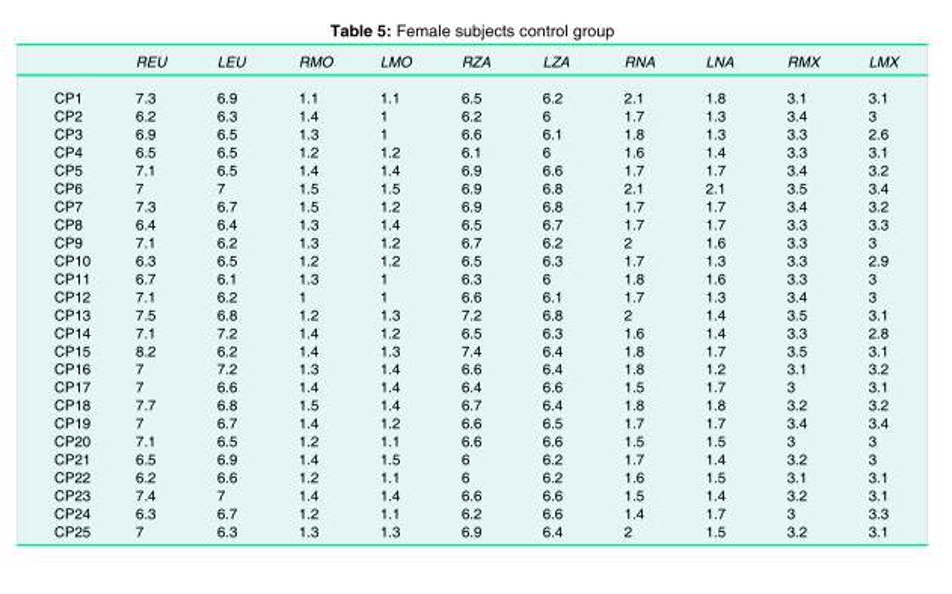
<table><thead><tr><td></td><td>REU</td><td>LEU</td><td>RMO</td><td>LMO</td><td>RZA</td><td>LZA</td><td>RNA</td><td>LNA</td><td>RMX</td><td>LMX</td></tr></thead><tbody><tr><td>CP1</td><td>7.3</td><td>6.9</td><td>1.1</td><td>1.1</td><td>6.5</td><td>6.2</td><td>2.1</td><td>1.8</td><td>3.1</td><td>3.1</td></tr><tr><td>CP2</td><td>6.2</td><td>6.3</td><td>1.4</td><td>1</td><td>6.2</td><td>6</td><td>1.7</td><td>1.3</td><td>3.4</td><td>3</td></tr><tr><td>CP3</td><td>6.9</td><td>6.5</td><td>1.3</td><td>1</td><td>6.6</td><td>6.1</td><td>1.8</td><td>1.3</td><td>3.3</td><td>2.6</td></tr><tr><td>CP4</td><td>6.5</td><td>6.5</td><td>1.2</td><td>1.2</td><td>6.1</td><td>6</td><td>1.6</td><td>1.4</td><td>3.3</td><td>3.1</td></tr><tr><td>CP5</td><td>7.1</td><td>6.5</td><td>1.4</td><td>1.4</td><td>6.9</td><td>6.6</td><td>1.7</td><td>1.7</td><td>3.4</td><td>3.2</td></tr><tr><td>CP6</td><td>7</td><td>7</td><td>1.5</td><td>1.5</td><td>6.9</td><td>6.8</td><td>2.1</td><td>2.1</td><td>3.5</td><td>3.4</td></tr><tr><td>CP7</td><td>7.3</td><td>6.7</td><td>1.5</td><td>1.2</td><td>6.9</td><td>6.8</td><td>1.7</td><td>1.7</td><td>3.4</td><td>3.2</td></tr><tr><td>CP8</td><td>6.4</td><td>6.4</td><td>1.3</td><td>1.4</td><td>6.5</td><td>6.7</td><td>1.7</td><td>1.7</td><td>3.3</td><td>3.3</td></tr><tr><td>CP9</td><td>7.1</td><td>6.2</td><td>1.3</td><td>1.2</td><td>6.7</td><td>6.2</td><td>2</td><td>1.6</td><td>3.3</td><td>3</td></tr><tr><td>CP10</td><td>6.3</td><td>6.5</td><td>1.2</td><td>1.2</td><td>6.5</td><td>6.3</td><td>1.7</td><td>1.3</td><td>3.3</td><td>2.9</td></tr><tr><td>CP11</td><td>6.7</td><td>6.1</td><td>1.3</td><td>1</td><td>6.3</td><td>6</td><td>1.8</td><td>1.6</td><td>3.3</td><td>3</td></tr><tr><td>CP12</td><td>7.1</td><td>6.2</td><td>1</td><td>1</td><td>6.6</td><td>6.1</td><td>1.7</td><td>1.3</td><td>3.4</td><td>3</td></tr><tr><td>CP13</td><td>7.5</td><td>6.8</td><td>1.2</td><td>1.3</td><td>7.2</td><td>6.8</td><td>2</td><td>1.4</td><td>3.5</td><td>3.1</td></tr><tr><td>CP14</td><td>7.1</td><td>7.2</td><td>1.4</td><td>1.2</td><td>6.5</td><td>6.3</td><td>1.6</td><td>1.4</td><td>3.3</td><td>2.8</td></tr><tr><td>CP15</td><td>8.2</td><td>6.2</td><td>1.4</td><td>1.3</td><td>7.4</td><td>6.4</td><td>1.8</td><td>1.7</td><td>3.5</td><td>3.1</td></tr><tr><td>CP16</td><td>7</td><td>7.2</td><td>1.3</td><td>1.4</td><td>6.6</td><td>6.4</td><td>1.8</td><td>1.2</td><td>3.1</td><td>3.2</td></tr><tr><td>CP17</td><td>7</td><td>6.6</td><td>1.4</td><td>1.4</td><td>6.4</td><td>6.6</td><td>1.5</td><td>1.7</td><td>3</td><td>3.1</td></tr><tr><td>CP18</td><td>7.7</td><td>6.8</td><td>1.5</td><td>1.4</td><td>6.7</td><td>6.4</td><td>1.8</td><td>1.8</td><td>3.2</td><td>3.2</td></tr><tr><td>CP19</td><td>7</td><td>6.7</td><td>1.4</td><td>1.2</td><td>6.6</td><td>6.5</td><td>1.7</td><td>1.7</td><td>3.4</td><td>3.4</td></tr><tr><td>CP20</td><td>7.1</td><td>6.5</td><td>1.2</td><td>1.1</td><td>6.6</td><td>6.6</td><td>1.5</td><td>1.5</td><td>3</td><td>3</td></tr><tr><td>CP21</td><td>6.5</td><td>6.9</td><td>1.4</td><td>1.5</td><td>6</td><td>6.2</td><td>1.7</td><td>1.4</td><td>3.2</td><td>3</td></tr><tr><td>CP22</td><td>6.2</td><td>6.6</td><td>1.2</td><td>1.1</td><td>6</td><td>6.2</td><td>1.6</td><td>1.5</td><td>3.1</td><td>3.1</td></tr><tr><td>CP23</td><td>7.4</td><td>7</td><td>1.4</td><td>1.4</td><td>6.6</td><td>6.6</td><td>1.5</td><td>1.4</td><td>3.2</td><td>3.1</td></tr><tr><td>CP24</td><td>6.3</td><td>6.7</td><td>1.2</td><td>1.1</td><td>6.2</td><td>6.6</td><td>1.4</td><td>1.7</td><td>3</td><td>3.3</td></tr><tr><td>CP25</td><td>7</td><td>6.3</td><td>1.3</td><td>1.3</td><td>6.9</td><td>6.4</td><td>2</td><td>1.5</td><td>3.2</td><td>3.1</td></tr></tbody></table>